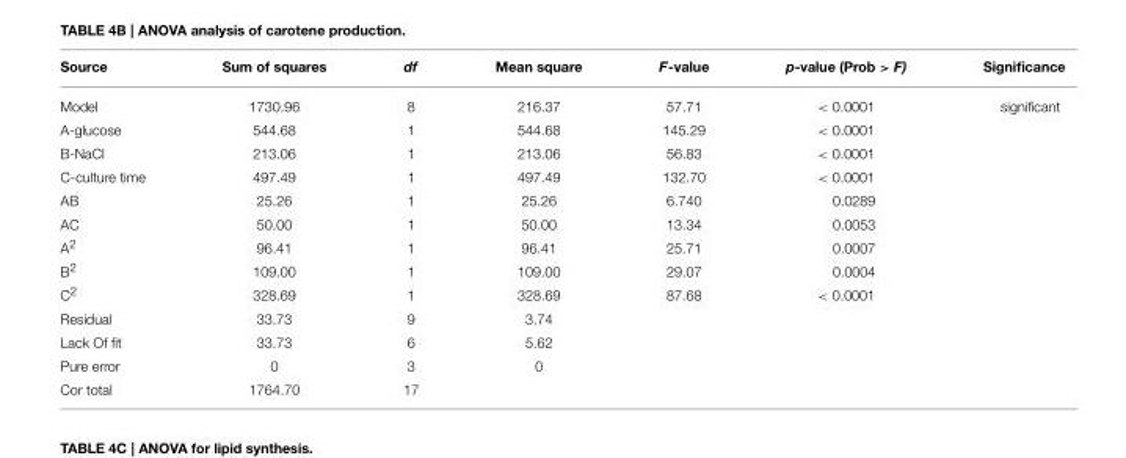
<table><thead><tr><td>Source</td><td>Sum of squares</td><td>df</td><td>Mean square</td><td>F-value</td><td>p-value (Prob &gt; F)</td><td>Significance</td></tr></thead><tbody><tr><td>Model</td><td>1730.96</td><td>8</td><td>216.37</td><td>57.71</td><td>&lt; 0.0001</td><td>significant</td></tr><tr><td>A-glucose</td><td>544.68</td><td>1</td><td>544.68</td><td>145.29</td><td>&lt; 0.0001</td><td></td></tr><tr><td>B-NaCl</td><td>213.06</td><td>1</td><td>213.06</td><td>56.83</td><td>&lt; 0.0001</td><td></td></tr><tr><td>C-culture time</td><td>497.49</td><td>1</td><td>497.49</td><td>132.70</td><td>&lt; 0.0001</td><td></td></tr><tr><td>AB</td><td>25.26</td><td>1</td><td>25.26</td><td>6.740</td><td>0.0289</td><td></td></tr><tr><td>AC</td><td>50.00</td><td>1</td><td>50.00</td><td>13.34</td><td>0.0053</td><td></td></tr><tr><td>A<sup>2</sup></td><td>96.41</td><td>1</td><td>96.41</td><td>25.71</td><td>0.0007</td><td></td></tr><tr><td>B<sup>2</sup></td><td>109.00</td><td>1</td><td>109.00</td><td>29.07</td><td>0.0004</td><td></td></tr><tr><td>C<sup>2</sup></td><td>328.69</td><td>1</td><td>328.69</td><td>87.68</td><td>&lt; 0.0001</td><td></td></tr><tr><td>Residual</td><td>33.73</td><td>9</td><td>3.74</td><td></td><td></td><td></td></tr><tr><td>Lack Of fit</td><td>33.73</td><td>6</td><td>5.62</td><td></td><td></td><td></td></tr><tr><td>Pure error</td><td>0</td><td>3</td><td>0</td><td></td><td></td><td></td></tr><tr><td>Cor total</td><td>1764.70</td><td>17</td><td></td><td></td><td></td><td></td></tr></tbody></table>